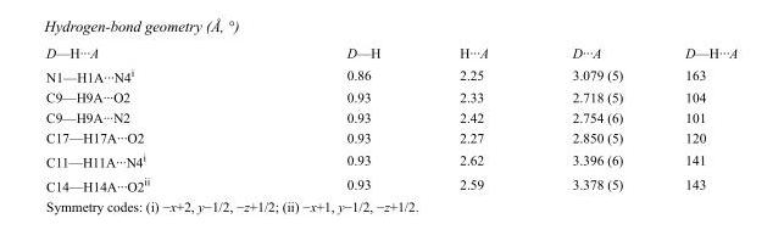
<table><tbody><tr><td>D—H···A</td><td>D—H</td><td>H···A</td><td>D···A</td><td>D—H···A</td></tr><tr><td>N1—H1A···N4<sup>i</sup></td><td>0.86</td><td>2.25</td><td>3.079 (5)</td><td>163</td></tr><tr><td>C9—H9A···O2</td><td>0.93</td><td>2.33</td><td>2.718 (5)</td><td>104</td></tr><tr><td>C9—H9A···N2</td><td>0.93</td><td>2.42</td><td>2.754 (6)</td><td>101</td></tr><tr><td>C17—H17A···O2</td><td>0.93</td><td>2.27</td><td>2.850 (5)</td><td>120</td></tr><tr><td>C11—H11A···N4<sup>i</sup></td><td>0.93</td><td>2.62</td><td>3.396 (6)</td><td>141</td></tr><tr><td>C14—H14A···O2<sup>ii</sup></td><td>0.93</td><td>2.59</td><td>3.378 (5)</td><td>143</td></tr></tbody></table>